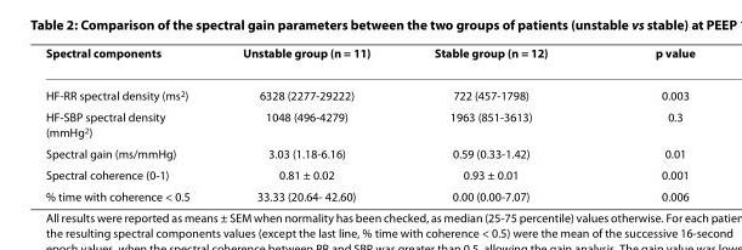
<table><thead><tr><td>Spectral components</td><td>Unstable group (n = 11)</td><td>Stable group (n = 12)</td><td>p value</td></tr></thead><tbody><tr><td>HF-RR spectral density (ms<sup>2</sup>)</td><td>6328 (2277-29222)</td><td>722 (457-1798)</td><td>0.003</td></tr><tr><td>HF-SBP spectral density (mmHg<sup>2</sup>)</td><td>1048 (496-4279)</td><td>1963 (851-3613)</td><td>0.3</td></tr><tr><td>Spectral gain (ms/mmHg)</td><td>3.03 (1.18-6.16)</td><td>0.59 (0.33-1.42)</td><td>0.01</td></tr><tr><td>Spectral coherence (0-1)</td><td>0.81 ± 0.02</td><td>0.93 ± 0.01</td><td>0.001</td></tr><tr><td>% time with coherence &lt; 0.5</td><td>33.33 (20.64- 42.60)</td><td>0.00 (0.00-7.07)</td><td>0.006</td></tr></tbody></table>